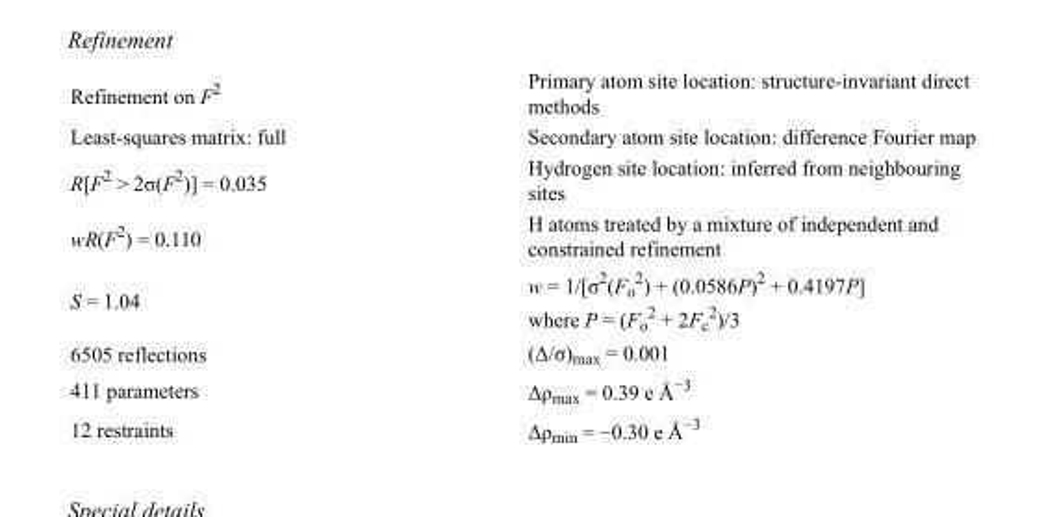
<table><tbody><tr><td>Refinement on F<sup>2</sup></td><td>Primary atom site location: structure-invariant direct methods</td></tr><tr><td>Least-squares matrix: full</td><td>Secondary atom site location: difference Fourier map</td></tr><tr><td>R[F<sup>2</sup> &gt; 2σ(F<sup>2</sup>)] = 0.035</td><td>Hydrogen site location: inferred from neighbouring sites</td></tr><tr><td>wR(F<sup>2</sup>) = 0.110</td><td>H atoms treated by a mixture of independent and constrained refinement</td></tr><tr><td>S = 1.04</td><td>w = 1/[σ<sup>2</sup>(F<sub>o</sub> <sup>2</sup>) + (0.0586P)<sup>2</sup> + 0.4197P] where P = (F<sub>o</sub> <sup>2</sup> + 2F<sub>c</sub> <sup>2</sup>)/3</td></tr><tr><td>6505 reflections</td><td>(Δ/σ)<sub>max</sub> = 0.001</td></tr><tr><td>411 parameters</td><td>Δρ<sub>max</sub> = 0.39 e Å<sup>−3</sup></td></tr><tr><td>12 restraints</td><td>Δρ<sub>min</sub> = −0.30 e Å<sup>−3</sup></td></tr></tbody></table>